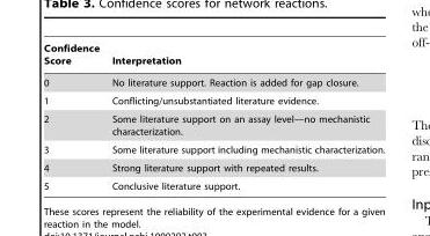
<table><thead><tr><td>Confidence Score</td><td>Interpretation</td></tr></thead><tbody><tr><td>0</td><td>No literature support. Reaction is added for gap closure.</td></tr><tr><td>1</td><td>Conflicting/unsubstantiated literature evidence.</td></tr><tr><td>2</td><td>Some literature support on an assay level—no mechanistic characterization.</td></tr><tr><td>3</td><td>Some literature support including mechanistic characterization.</td></tr><tr><td>4</td><td>Strong literature support with repeated results.</td></tr><tr><td>5</td><td>Conclusive literature support.</td></tr></tbody></table>